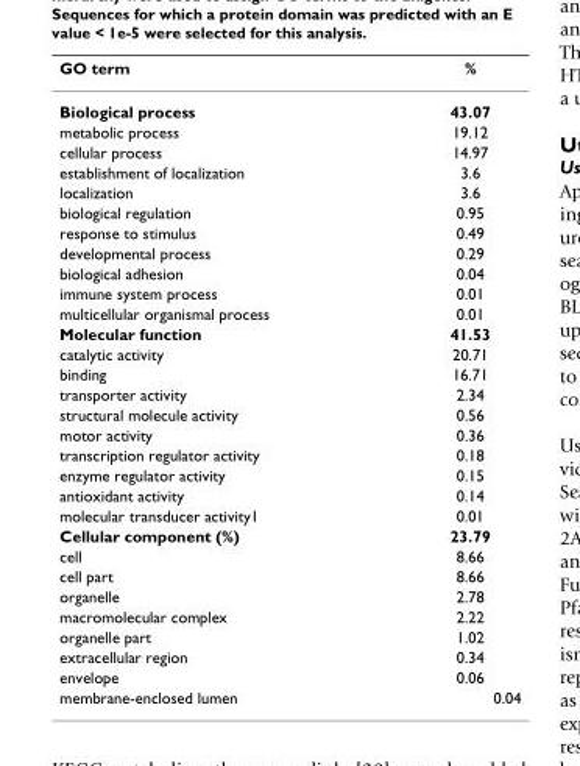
<table><thead><tr><td>GO term</td><td>%</td></tr></thead><tbody><tr><td>Biological process</td><td>43.07</td></tr><tr><td>metabolic process</td><td>19.12</td></tr><tr><td>cellular process</td><td>14.97</td></tr><tr><td>establishment of localization</td><td>3.6</td></tr><tr><td>localization</td><td>3.6</td></tr><tr><td>biological regulation</td><td>0.95</td></tr><tr><td>response to stimulus</td><td>0.49</td></tr><tr><td>developmental process</td><td>0.29</td></tr><tr><td>biological adhesion</td><td>0.04</td></tr><tr><td>immune system process</td><td>0.01</td></tr><tr><td>multicellular organismal process</td><td>0.01</td></tr><tr><td>Molecular function</td><td>41.53</td></tr><tr><td>catalytic activity</td><td>20.71</td></tr><tr><td>binding</td><td>16.71</td></tr><tr><td>transporter activity</td><td>2.34</td></tr><tr><td>structural molecule activity</td><td>0.56</td></tr><tr><td>motor activity</td><td>0.36</td></tr><tr><td>transcription regulator activity</td><td>0.18</td></tr><tr><td>enzyme regulator activity</td><td>0.15</td></tr><tr><td>antioxidant activity</td><td>0.14</td></tr><tr><td>molecular transducer activity1</td><td>0.01</td></tr><tr><td>Cellular component (%)</td><td>23.79</td></tr><tr><td>cell</td><td>8.66</td></tr><tr><td>cell part</td><td>8.66</td></tr><tr><td>organelle</td><td>2.78</td></tr><tr><td>macromolecular complex</td><td>2.22</td></tr><tr><td>organelle part</td><td>1.02</td></tr><tr><td>extracellular region</td><td>0.34</td></tr><tr><td>envelope</td><td>0.06</td></tr><tr><td>membrane-enclosed lumen</td><td>0.04</td></tr></tbody></table>